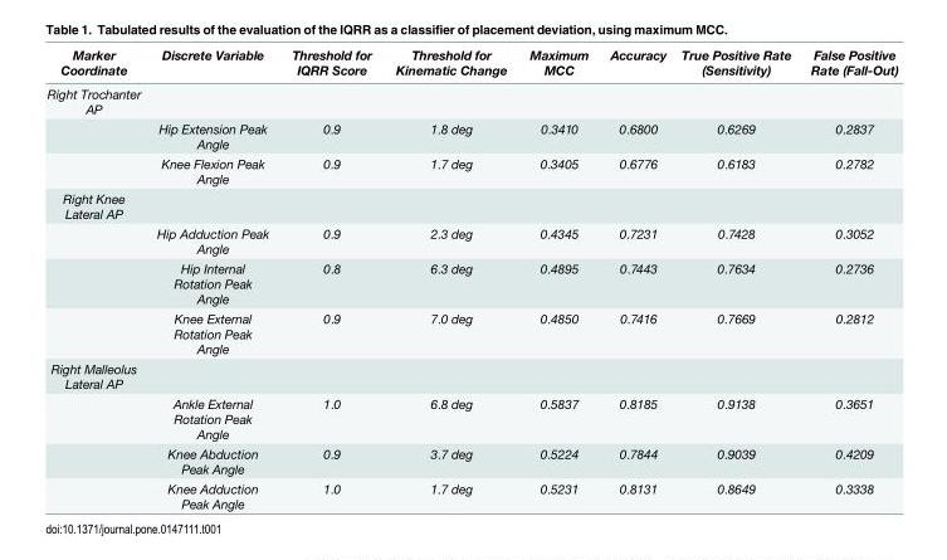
<table><thead><tr><td>Marker Coordinate</td><td>Discrete Variable</td><td>Threshold for IQRR Score</td><td>Threshold for Kinematic Change</td><td>Maximum MCC</td><td>Accuracy</td><td>True Positive Rate (Sensitivity)</td><td>False Positive Rate (Fall-Out)</td></tr></thead><tbody><tr><td colspan="8">Right Trochanter AP</td></tr><tr><td></td><td>Hip Extension Peak Angle</td><td>0.9</td><td>1.8 deg</td><td>0.3410</td><td>0.6800</td><td>0.6269</td><td>0.2837</td></tr><tr><td></td><td>Knee Flexion Peak Angle</td><td>0.9</td><td>1.7 deg</td><td>0.3405</td><td>0.6776</td><td>0.6183</td><td>0.2782</td></tr><tr><td colspan="8">Right Knee Lateral AP</td></tr><tr><td></td><td>Hip Adduction Peak Angle</td><td>0.9</td><td>2.3 deg</td><td>0.4345</td><td>0.7231</td><td>0.7428</td><td>0.3052</td></tr><tr><td></td><td>Hip Internal Rotation Peak Angle</td><td>0.8</td><td>6.3 deg</td><td>0.4895</td><td>0.7443</td><td>0.7634</td><td>0.2736</td></tr><tr><td></td><td>Knee External Rotation Peak Angle</td><td>0.9</td><td>7.0 deg</td><td>0.4850</td><td>0.7416</td><td>0.7669</td><td>0.2812</td></tr><tr><td colspan="8">Right Malleolus Lateral AP</td></tr><tr><td></td><td>Ankle External Rotation Peak Angle</td><td>1.0</td><td>6.8 deg</td><td>0.5837</td><td>0.8185</td><td>0.9138</td><td>0.3651</td></tr><tr><td></td><td>Knee Abduction Peak Angle</td><td>0.9</td><td>3.7 deg</td><td>0.5224</td><td>0.7844</td><td>0.9039</td><td>0.4209</td></tr><tr><td></td><td>Knee Adduction Peak Angle</td><td>1.0</td><td>1.7 deg</td><td>0.5231</td><td>0.8131</td><td>0.8649</td><td>0.3338</td></tr></tbody></table>